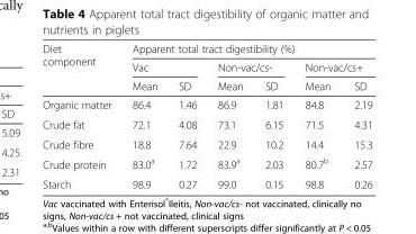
<table><thead><tr><td rowspan="3">Diet component</td><td colspan="6">Apparent total tract digestibility (%)</td></tr><tr><td colspan="2">Vac</td><td colspan="2">Non-vac/cs-</td><td colspan="2">Non-vac/cs+</td></tr><tr><td>Mean</td><td>SD</td><td>Mean</td><td>SD</td><td>Mean</td><td>SD</td></tr></thead><tbody><tr><td>Organic matter</td><td>86.4</td><td>1.46</td><td>86.9</td><td>1.81</td><td>84.8</td><td>2.19</td></tr><tr><td>Crude fat</td><td>72.1</td><td>4.08</td><td>73.1</td><td>6.15</td><td>71.5</td><td>4.31</td></tr><tr><td>Crude fibre</td><td>18.8</td><td>7.64</td><td>22.9</td><td>10.2</td><td>14.4</td><td>15.3</td></tr><tr><td>Crude protein</td><td>83.0<sup>a</sup></td><td>1.72</td><td>83.9<sup>a</sup></td><td>2.03</td><td>80.7<sup>b</sup></td><td>2.57</td></tr><tr><td>Starch</td><td>98.9</td><td>0.27</td><td>99.0</td><td>0.15</td><td>98.8</td><td>0.26</td></tr></tbody></table>